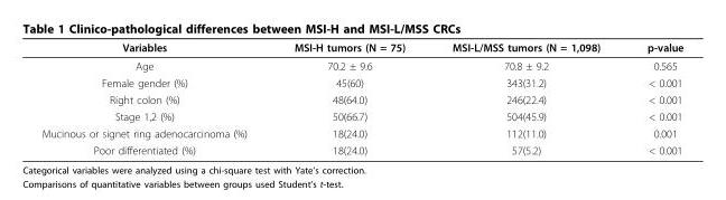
<table><thead><tr><td>Variables</td><td>MSI-H tumors (N = 75)</td><td>MSI-L/MSS tumors (N = 1,098)</td><td>p-value</td></tr></thead><tbody><tr><td>Age</td><td>70.2 ± 9.6</td><td>70.8 ± 9.2</td><td>0.565</td></tr><tr><td>Female gender (%)</td><td>45(60)</td><td>343(31.2)</td><td>&lt; 0.001</td></tr><tr><td>Right colon (%)</td><td>48(64.0)</td><td>246(22.4)</td><td>&lt; 0.001</td></tr><tr><td>Stage 1,2 (%)</td><td>50(66.7)</td><td>504(45.9)</td><td>&lt; 0.001</td></tr><tr><td>Mucinous or signet ring adenocarcinoma (%)</td><td>18(24.0)</td><td>112(11.0)</td><td>0.001</td></tr><tr><td>Poor differentiated (%)</td><td>18(24.0)</td><td>57(5.2)</td><td>&lt; 0.001</td></tr></tbody></table>